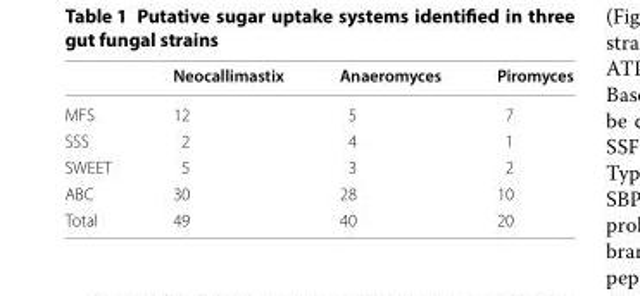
<table><thead><tr><td></td><td>Neocallimastix</td><td>Anaeromyces</td><td>Piromyces</td></tr></thead><tbody><tr><td>MFS</td><td>12</td><td>5</td><td>7</td></tr><tr><td>SSS</td><td>2</td><td>4</td><td>1</td></tr><tr><td>SWEET</td><td>5</td><td>3</td><td>2</td></tr><tr><td>ABC</td><td>30</td><td>28</td><td>10</td></tr><tr><td>Total</td><td>49</td><td>40</td><td>20</td></tr></tbody></table>